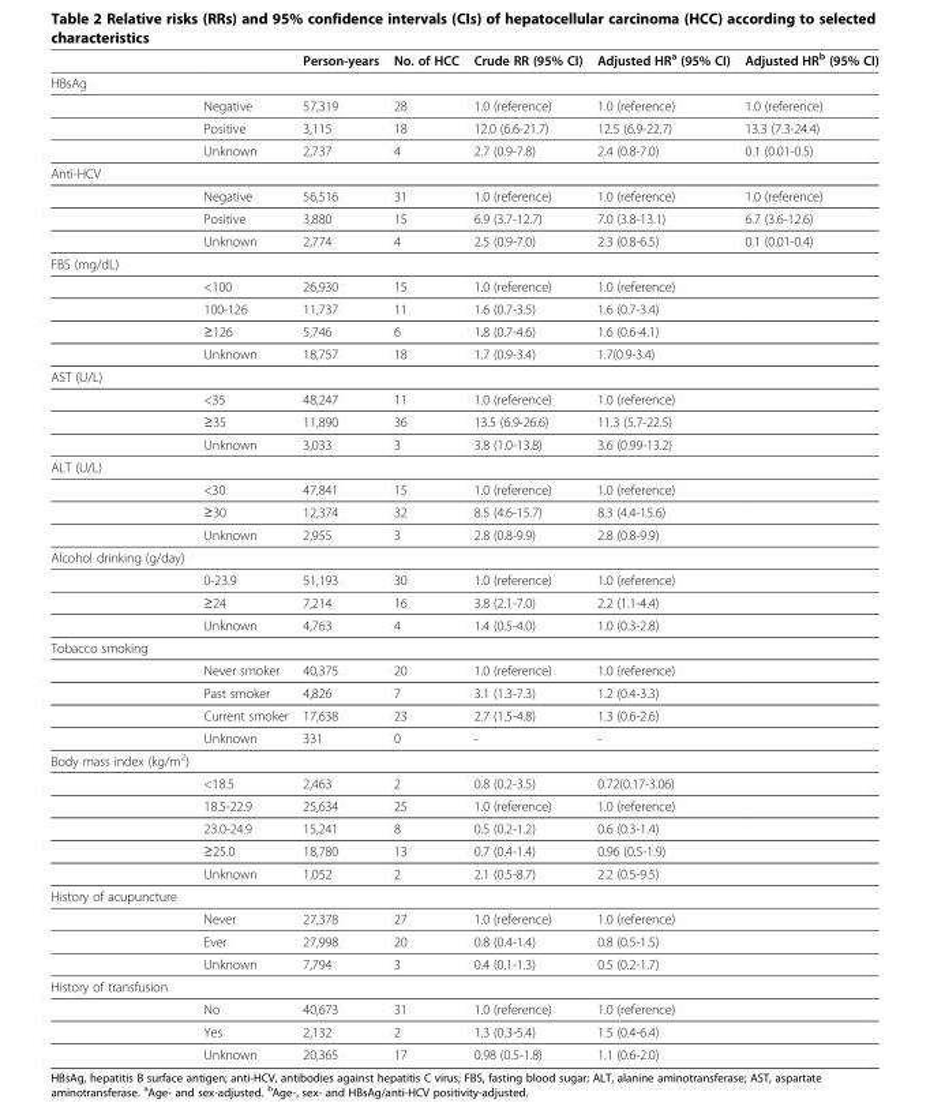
<table><thead><tr><td></td><td></td><td>Person-years</td><td>No. of HCC</td><td>Crude RR (95% CI)</td><td>Adjusted HR<sup>a</sup> (95% CI)</td><td>Adjusted HR<sup>b</sup> (95% CI)</td></tr></thead><tbody><tr><td colspan="7">HBsAg</td></tr><tr><td></td><td>Negative</td><td>57,319</td><td>28</td><td>1.0 (reference)</td><td>1.0 (reference)</td><td>1.0 (reference)</td></tr><tr><td></td><td>Positive</td><td>3,115</td><td>18</td><td>12.0 (6.6-21.7)</td><td>12.5 (6.9-22.7)</td><td>13.3 (7.3-24.4)</td></tr><tr><td></td><td>Unknown</td><td>2,737</td><td>4</td><td>2.7 (0.9-7.8)</td><td>2.4 (0.8-7.0)</td><td>0.1 (0.01-0.5)</td></tr><tr><td colspan="7">Anti-HCV</td></tr><tr><td></td><td>Negative</td><td>56,516</td><td>31</td><td>1.0 (reference)</td><td>1.0 (reference)</td><td>1.0 (reference)</td></tr><tr><td></td><td>Positive</td><td>3,880</td><td>15</td><td>6.9 (3.7-12.7)</td><td>7.0 (3.8-13.1)</td><td>6.7 (3.6-12.6)</td></tr><tr><td></td><td>Unknown</td><td>2,774</td><td>4</td><td>2.5 (0.9-7.0)</td><td>2.3 (0.8-6.5)</td><td>0.1 (0.01-0.4)</td></tr><tr><td colspan="7">FBS (mg/dL)</td></tr><tr><td></td><td>&lt;100</td><td>26,930</td><td>15</td><td>1.0 (reference)</td><td>1.0 (reference)</td><td></td></tr><tr><td></td><td>100-126</td><td>11,737</td><td>11</td><td>1.6 (0.7-3.5)</td><td>1.6 (0.7-3.4)</td><td></td></tr><tr><td></td><td>≥126</td><td>5,746</td><td>6</td><td>1.8 (0.7-4.6)</td><td>1.6 (0.6-4.1)</td><td></td></tr><tr><td></td><td>Unknown</td><td>18,757</td><td>18</td><td>1.7 (0.9-3.4)</td><td>1.7(0.9-3.4)</td><td></td></tr><tr><td colspan="7">AST (U/L)</td></tr><tr><td></td><td>&lt;35</td><td>48,247</td><td>11</td><td>1.0 (reference)</td><td>1.0 (reference)</td><td></td></tr><tr><td></td><td>≥35</td><td>11,890</td><td>36</td><td>13.5 (6.9-26.6)</td><td>11.3 (5.7-22.5)</td><td></td></tr><tr><td></td><td>Unknown</td><td>3,033</td><td>3</td><td>3.8 (1.0-13.8)</td><td>3.6 (0.99-13.2)</td><td></td></tr><tr><td colspan="7">ALT (U/L)</td></tr><tr><td></td><td>&lt;30</td><td>47,841</td><td>15</td><td>1.0 (reference)</td><td>1.0 (reference)</td><td></td></tr><tr><td></td><td>≥30</td><td>12,374</td><td>32</td><td>8.5 (4.6-15.7)</td><td>8.3 (4.4-15.6)</td><td></td></tr><tr><td></td><td>Unknown</td><td>2,955</td><td>3</td><td>2.8 (0.8-9.9)</td><td>2.8 (0.8-9.9)</td><td></td></tr><tr><td colspan="7">Alcohol drinking (g/day)</td></tr><tr><td></td><td>0-23.9</td><td>51,193</td><td>30</td><td>1.0 (reference)</td><td>1.0 (reference)</td><td></td></tr><tr><td></td><td>≥24</td><td>7,214</td><td>16</td><td>3.8 (2.1-7.0)</td><td>2.2 (1.1-4.4)</td><td></td></tr><tr><td></td><td>Unknown</td><td>4,763</td><td>4</td><td>1.4 (0.5-4.0)</td><td>1.0 (0.3-2.8)</td><td></td></tr><tr><td colspan="7">Tobacco smoking</td></tr><tr><td></td><td>Never smoker</td><td>40,375</td><td>20</td><td>1.0 (reference)</td><td>1.0 (reference)</td><td></td></tr><tr><td></td><td>Past smoker</td><td>4,826</td><td>7</td><td>3.1 (1.3-7.3)</td><td>1.2 (0.4-3.3)</td><td></td></tr><tr><td></td><td>Current smoker</td><td>17,638</td><td>23</td><td>2.7 (1.5-4.8)</td><td>1.3 (0.6-2.6)</td><td></td></tr><tr><td></td><td>Unknown</td><td>331</td><td>0</td><td>-</td><td>-</td><td></td></tr><tr><td colspan="7">Body mass index (kg/m<sup>2</sup>)</td></tr><tr><td></td><td>&lt;18.5</td><td>2,463</td><td>2</td><td>0.8 (0.2-3.5)</td><td>0.72(0.17-3.06)</td><td></td></tr><tr><td></td><td>18.5-22.9</td><td>25,634</td><td>25</td><td>1.0 (reference)</td><td>1.0 (reference)</td><td></td></tr><tr><td></td><td>23.0-24.9</td><td>15,241</td><td>8</td><td>0.5 (0.2-1.2)</td><td>0.6 (0.3-1.4)</td><td></td></tr><tr><td></td><td>≥25.0</td><td>18,780</td><td>13</td><td>0.7 (0.4-1.4)</td><td>0.96 (0.5-1.9)</td><td></td></tr><tr><td></td><td>Unknown</td><td>1,052</td><td>2</td><td>2.1 (0.5-8.7)</td><td>2.2 (0.5-9.5)</td><td></td></tr><tr><td colspan="7">History of acupuncture</td></tr><tr><td></td><td>Never</td><td>27,378</td><td>27</td><td>1.0 (reference)</td><td>1.0 (reference)</td><td></td></tr><tr><td></td><td>Ever</td><td>27,998</td><td>20</td><td>0.8 (0.4-1.4)</td><td>0.8 (0.5-1.5)</td><td></td></tr><tr><td></td><td>Unknown</td><td>7,794</td><td>3</td><td>0.4 (0.1-1.3)</td><td>0.5 (0.2-1.7)</td><td></td></tr><tr><td colspan="7">History of transfusion</td></tr><tr><td></td><td>No</td><td>40,673</td><td>31</td><td>1.0 (reference)</td><td>1.0 (reference)</td><td></td></tr><tr><td></td><td>Yes</td><td>2,132</td><td>2</td><td>1.3 (0.3-5.4)</td><td>1.5 (0.4-6.4)</td><td></td></tr><tr><td></td><td>Unknown</td><td>20,365</td><td>17</td><td>0.98 (0.5-1.8)</td><td>1.1 (0.6-2.0)</td><td></td></tr></tbody></table>